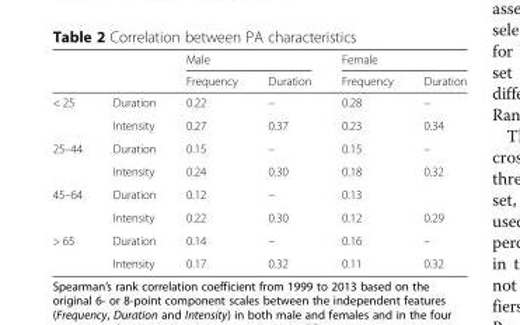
<table><thead><tr><td rowspan="2"></td><td rowspan="2"></td><td colspan="2">Male</td><td colspan="2">Female</td></tr><tr><td>Frequency</td><td>Duration</td><td>Frequency</td><td>Duration</td></tr></thead><tbody><tr><td rowspan="2">&lt; 25</td><td>Duration</td><td>0.22</td><td>–</td><td>0.28</td><td>–</td></tr><tr><td>Intensity</td><td>0.27</td><td>0.37</td><td>0.23</td><td>0.34</td></tr><tr><td rowspan="2">25–44</td><td>Duration</td><td>0.15</td><td>–</td><td>0.15</td><td>–</td></tr><tr><td>Intensity</td><td>0.24</td><td>0.30</td><td>0.18</td><td>0.32</td></tr><tr><td rowspan="2">45–64</td><td>Duration</td><td>0.12</td><td>–</td><td>0.13</td><td></td></tr><tr><td>Intensity</td><td>0.22</td><td>0.30</td><td>0.12</td><td>0.29</td></tr><tr><td rowspan="2">&gt; 65</td><td>Duration</td><td>0.14</td><td>–</td><td>0.16</td><td>–</td></tr><tr><td>Intensity</td><td>0.17</td><td>0.32</td><td>0.11</td><td>0.32</td></tr></tbody></table>